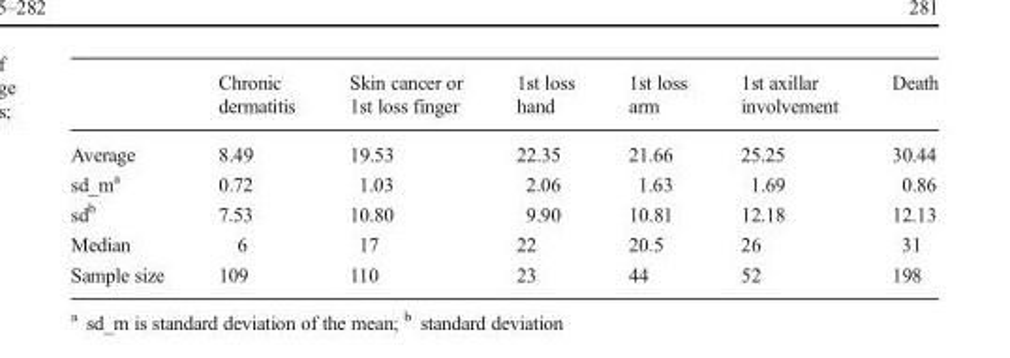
<table><thead><tr><td></td><td>Chronic dermatitis</td><td>Skin cancer or 1st loss finger</td><td>1st loss hand</td><td>1st loss arm</td><td>1st axillar involvement</td><td>Death</td></tr></thead><tbody><tr><td>Average</td><td>8.49</td><td>19.53</td><td>22.35</td><td>21.66</td><td>25.25</td><td>30.44</td></tr><tr><td>sd_m<sup>a</sup></td><td>0.72</td><td>1.03</td><td>2.06</td><td>1.63</td><td>1.69</td><td>0.86</td></tr><tr><td>sd<sup>b</sup></td><td>7.53</td><td>10.80</td><td>9.90</td><td>10.81</td><td>12.18</td><td>12.13</td></tr><tr><td>Median</td><td>6</td><td>17</td><td>22</td><td>20.5</td><td>26</td><td>31</td></tr><tr><td>Sample size</td><td>109</td><td>110</td><td>23</td><td>44</td><td>52</td><td>198</td></tr></tbody></table>